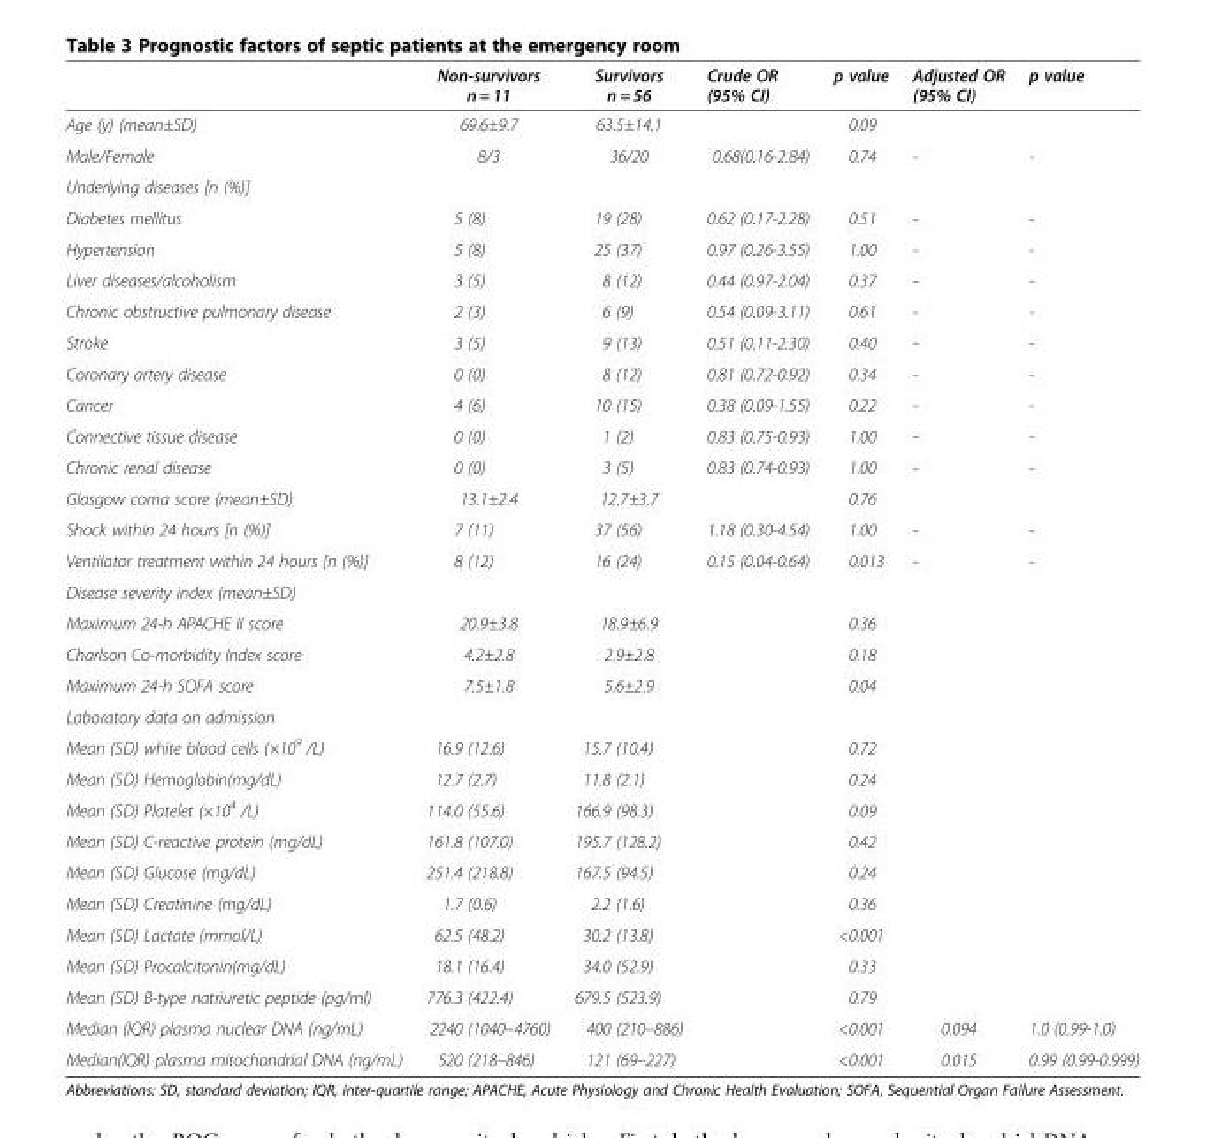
<table><thead><tr><td></td><td>Non-survivors n = 11</td><td>Survivors n = 56</td><td>Crude OR (95% CI)</td><td>p value</td><td>Adjusted OR (95% CI)</td><td>p value</td></tr></thead><tbody><tr><td>Age (y) (mean±SD)</td><td>69.6±9.7</td><td>63.5±14.1</td><td></td><td>0.09</td><td></td><td></td></tr><tr><td>Male/Female</td><td>8/3</td><td>36/20</td><td>0.68(0.16-2.84)</td><td>0.74</td><td>-</td><td>-</td></tr><tr><td colspan="7">Underlying diseases [n (%)]</td></tr><tr><td>Diabetes mellitus</td><td>5 (8)</td><td>19 (28)</td><td>0.62 (0.17-2.28)</td><td>0.51</td><td>-</td><td>-</td></tr><tr><td>Hypertension</td><td>5 (8)</td><td>25 (37)</td><td>0.97 (0.26-3.55)</td><td>1.00</td><td>-</td><td>-</td></tr><tr><td>Liver diseases/alcoholism</td><td>3 (5)</td><td>8 (12)</td><td>0.44 (0.97-2.04)</td><td>0.37</td><td>-</td><td>-</td></tr><tr><td>Chronic obstructive pulmonary disease</td><td>2 (3)</td><td>6 (9)</td><td>0.54 (0.09-3.11)</td><td>0.61</td><td>-</td><td>-</td></tr><tr><td>Stroke</td><td>3 (5)</td><td>9 (13)</td><td>0.51 (0.11-2.30)</td><td>0.40</td><td>-</td><td>-</td></tr><tr><td>Coronary artery disease</td><td>0 (0)</td><td>8 (12)</td><td>0.81 (0.72-0.92)</td><td>0.34</td><td>-</td><td>-</td></tr><tr><td>Cancer</td><td>4 (6)</td><td>10 (15)</td><td>0.38 (0.09-1.55)</td><td>0.22</td><td>-</td><td>-</td></tr><tr><td>Connective tissue disease</td><td>0 (0)</td><td>1 (2)</td><td>0.83 (0.75-0.93)</td><td>1.00</td><td>-</td><td>-</td></tr><tr><td>Chronic renal disease</td><td>0 (0)</td><td>3 (5)</td><td>0.83 (0.74-0.93)</td><td>1.00</td><td>-</td><td>-</td></tr><tr><td>Glasgow coma score (mean±SD)</td><td>13.1±2.4</td><td>12.7±3.7</td><td></td><td>0.76</td><td></td><td></td></tr><tr><td>Shock within 24 hours [n (%)]</td><td>7 (11)</td><td>37 (56)</td><td>1.18 (0.30-4.54)</td><td>1.00</td><td>-</td><td>-</td></tr><tr><td>Ventilator treatment within 24 hours [n (%)]</td><td>8 (12)</td><td>16 (24)</td><td>0.15 (0.04-0.64)</td><td>0.013</td><td>-</td><td>-</td></tr><tr><td colspan="7">Disease severity index (mean±SD)</td></tr><tr><td>Maximum 24-h APACHE II score</td><td>20.9±3.8</td><td>18.9±6.9</td><td></td><td>0.36</td><td></td><td></td></tr><tr><td>Charlson Co-morbidity Index score</td><td>4.2±2.8</td><td>2.9±2.8</td><td></td><td>0.18</td><td></td><td></td></tr><tr><td>Maximum 24-h SOFA score</td><td>7.5±1.8</td><td>5.6±2.9</td><td></td><td>0.04</td><td></td><td></td></tr><tr><td colspan="7">Laboratory data on admission</td></tr><tr><td>Mean (SD) white blood cells (×10<sup>9</sup> /L)</td><td>16.9 (12.6)</td><td>15.7 (10.4)</td><td></td><td>0.72</td><td></td><td></td></tr><tr><td>Mean (SD) Hemoglobin(mg/dL)</td><td>12.7 (2.7)</td><td>11.8 (2.1)</td><td></td><td>0.24</td><td></td><td></td></tr><tr><td>Mean (SD) Platelet (×10<sup>4</sup> /L)</td><td>114.0 (55.6)</td><td>166.9 (98.3)</td><td></td><td>0.09</td><td></td><td></td></tr><tr><td>Mean (SD) C-reactive protein (mg/dL)</td><td>161.8 (107.0)</td><td>195.7 (128.2)</td><td></td><td>0.42</td><td></td><td></td></tr><tr><td>Mean (SD) Glucose (mg/dL)</td><td>251.4 (218.8)</td><td>167.5 (94.5)</td><td></td><td>0.24</td><td></td><td></td></tr><tr><td>Mean (SD) Creatinine (mg/dL)</td><td>1.7 (0.6)</td><td>2.2 (1.6)</td><td></td><td>0.36</td><td></td><td></td></tr><tr><td>Mean (SD) Lactate (mmol/L)</td><td>62.5 (48.2)</td><td>30.2 (13.8)</td><td></td><td>&lt;0.001</td><td></td><td></td></tr><tr><td>Mean (SD) Procalcitonin(mg/dL)</td><td>18.1 (16.4)</td><td>34.0 (52.9)</td><td></td><td>0.33</td><td></td><td></td></tr><tr><td>Mean (SD) B-type natriuretic peptide (pg/ml)</td><td>776.3 (422.4)</td><td>679.5 (523.9)</td><td></td><td>0.79</td><td></td><td></td></tr><tr><td>Median (IQR) plasma nuclear DNA (ng/mL)</td><td>2240 (1040–4760)</td><td>400 (210–886)</td><td></td><td>&lt;0.001</td><td>0.094</td><td>1.0 (0.99-1.0)</td></tr><tr><td>Median(IQR) plasma mitochondrial DNA (ng/mL)</td><td>520 (218–846)</td><td>121 (69–227)</td><td></td><td>&lt;0.001</td><td>0.015</td><td>0.99 (0.99-0.999)</td></tr></tbody></table>